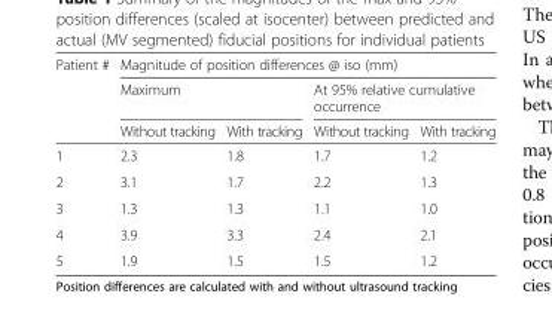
<table><thead><tr><td rowspan="3">Patient #</td><td colspan="4">Magnitude of position differences @ iso (mm)</td></tr><tr><td colspan="2">Maximum</td><td colspan="2">At 95% relative cumulative occurrence</td></tr><tr><td>Without tracking</td><td>With tracking</td><td>Without tracking</td><td>With tracking</td></tr></thead><tbody><tr><td>1</td><td>2.3</td><td>1.8</td><td>1.7</td><td>1.2</td></tr><tr><td>2</td><td>3.1</td><td>1.7</td><td>2.2</td><td>1.3</td></tr><tr><td>3</td><td>1.3</td><td>1.3</td><td>1.1</td><td>1.0</td></tr><tr><td>4</td><td>3.9</td><td>3.3</td><td>2.4</td><td>2.1</td></tr><tr><td>5</td><td>1.9</td><td>1.5</td><td>1.5</td><td>1.2</td></tr></tbody></table>